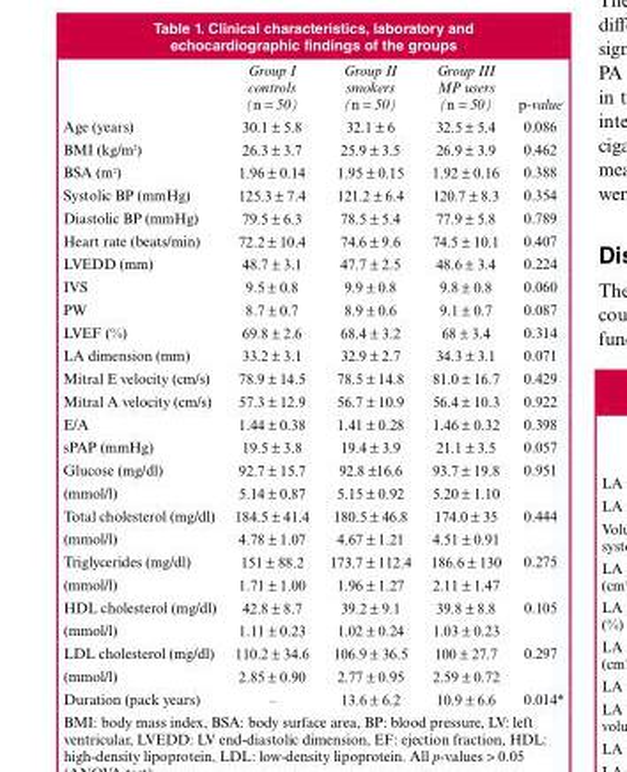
<table><thead><tr><td></td><td>Group I controls (n = 50)</td><td>Group II smokers (n = 50)</td><td>Group III MP users (n = 50)</td><td>p-value</td></tr></thead><tbody><tr><td>Age (years)</td><td>30.1 ± 5.8</td><td>32.1 ± 6</td><td>32.5 ± 5.4</td><td>0.086</td></tr><tr><td>BMI (kg/m<sup>2</sup>)</td><td>26.3 ± 3.7</td><td>25.9 ± 3.5</td><td>26.9 ± 3.9</td><td>0.462</td></tr><tr><td>BSA (m<sup>2</sup>)</td><td>1.96 ± 0.14</td><td>1.95 ± 0.15</td><td>1.92 ± 0.16</td><td>0.388</td></tr><tr><td>Systolic BP (mmHg)</td><td>125.3 ± 7.4</td><td>121.2 ± 6.4</td><td>120.7 ± 8.3</td><td>0.354</td></tr><tr><td>Diastolic BP (mmHg)</td><td>79.5 ± 6.3</td><td>78.5 ± 5.4</td><td>77.9 ± 5.8</td><td>0.789</td></tr><tr><td>Heart rate (beats/min)</td><td>72.2 ± 10.4</td><td>74.6 ± 9.6</td><td>74.5 ± 10.1</td><td>0.407</td></tr><tr><td>LVEDD (mm)</td><td>48.7 ± 3.1</td><td>47.7 ± 2.5</td><td>48.6 ± 3.4</td><td>0.224</td></tr><tr><td>IVS</td><td>9.5 ± 0.8</td><td>9.9 ± 0.8</td><td>9.8 ± 0.8</td><td>0.060</td></tr><tr><td>PW</td><td>8.7 ± 0.7</td><td>8.9 ± 0.6</td><td>9.1 ± 0.7</td><td>0.087</td></tr><tr><td>LVEF (%)</td><td>69.8 ± 2.6</td><td>68.4 ± 3.2</td><td>68 ± 3.4</td><td>0.314</td></tr><tr><td>LA dimension (mm)</td><td>33.2 ± 3.1</td><td>32.9 ± 2.7</td><td>34.3 ± 3.1</td><td>0.071</td></tr><tr><td>Mitral E velocity (cm/s)</td><td>78.9 ± 14.5</td><td>78.5 ± 14.8</td><td>81.0 ± 16.7</td><td>0.429</td></tr><tr><td>Mitral A velocity (cm/s)</td><td>57.3 ± 12.9</td><td>56.7 ± 10.9</td><td>56.4 ± 10.3</td><td>0.922</td></tr><tr><td>E/A</td><td>1.44 ± 0.38</td><td>1.41 ± 0.28</td><td>1.46 ± 0.32</td><td>0.398</td></tr><tr><td>sPAP (mmHg)</td><td>19.5 ± 3.8</td><td>19.4 ± 3.9</td><td>21.1 ± 3.5</td><td>0.057</td></tr><tr><td>Glucose (mg/dl)</td><td>92.7 ± 15.7</td><td>92.8 ±16.6</td><td>93.7 ± 19.8</td><td>0.951</td></tr><tr><td>(mmol/l)</td><td>5.14 ± 0.87</td><td>5.15 ± 0.92</td><td>5.20 ± 1.10</td><td></td></tr><tr><td>Total cholesterol (mg/dl)</td><td>184.5 ± 41.4</td><td>180.5 ± 46.8</td><td>174.0 ± 35</td><td>0.444</td></tr><tr><td>(mmol/l)</td><td>4.78 ± 1.07</td><td>4.67 ± 1.21</td><td>4.51 ± 0.91</td><td></td></tr><tr><td>Triglycerides (mg/dl)</td><td>151 ± 88.2</td><td>173.7 ± 112.4</td><td>186.6 ± 130</td><td>0.275</td></tr><tr><td>(mmol/l)</td><td>1.71 ± 1.00</td><td>1.96 ± 1.27</td><td>2.11 ± 1.47</td><td></td></tr><tr><td>HDL cholesterol (mg/dl)</td><td>42.8 ± 8.7</td><td>39.2 ± 9.1</td><td>39.8 ± 8.8</td><td>0.105</td></tr><tr><td>(mmol/l)</td><td>1.11 ± 0.23</td><td>1.02 ± 0.24</td><td>1.03 ± 0.23</td><td></td></tr><tr><td>LDL cholesterol (mg/dl)</td><td>110.2 ± 34.6</td><td>106.9 ± 36.5</td><td>100 ± 27.7</td><td>0.297</td></tr><tr><td>(mmol/l)</td><td>2.85 ± 0.90</td><td>2.77 ± 0.95</td><td>2.59 ± 0.72</td><td></td></tr><tr><td>Duration (pack years)</td><td>–</td><td>13.6 ± 6.2</td><td>10.9 ± 6.6</td><td>0.014*</td></tr></tbody></table>